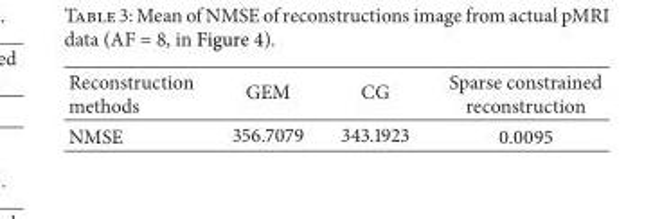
<table><thead><tr><td>Reconstruction methods</td><td>GEM</td><td>CG</td><td>Sparse constrained reconstruction</td></tr></thead><tbody><tr><td>NMSE</td><td>356.7079</td><td>343.1923</td><td>0.0095</td></tr></tbody></table>